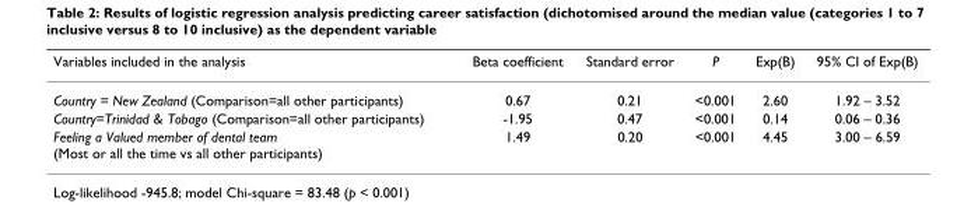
<table><thead><tr><td>Variables included in the analysis</td><td>Beta coefficient</td><td>Standard error</td><td>P</td><td>Exp(B)</td><td>95% CI of Exp(B)</td></tr></thead><tbody><tr><td>Country = New Zealand (Comparison=all other participants)</td><td>0.67</td><td>0.21</td><td>&lt;0.001</td><td>2.60</td><td>1.92 – 3.52</td></tr><tr><td>Country=Trinidad &amp; Tobago (Comparison=all other participants)</td><td>-1.95</td><td>0.47</td><td>&lt;0.001</td><td>0.14</td><td>0.06 – 0.36</td></tr><tr><td>Feeling a Valued member of dental team (Most or all the time vs all other participants)</td><td>1.49</td><td>0.20</td><td>&lt;0.001</td><td>4.45</td><td>3.00 – 6.59</td></tr></tbody></table>